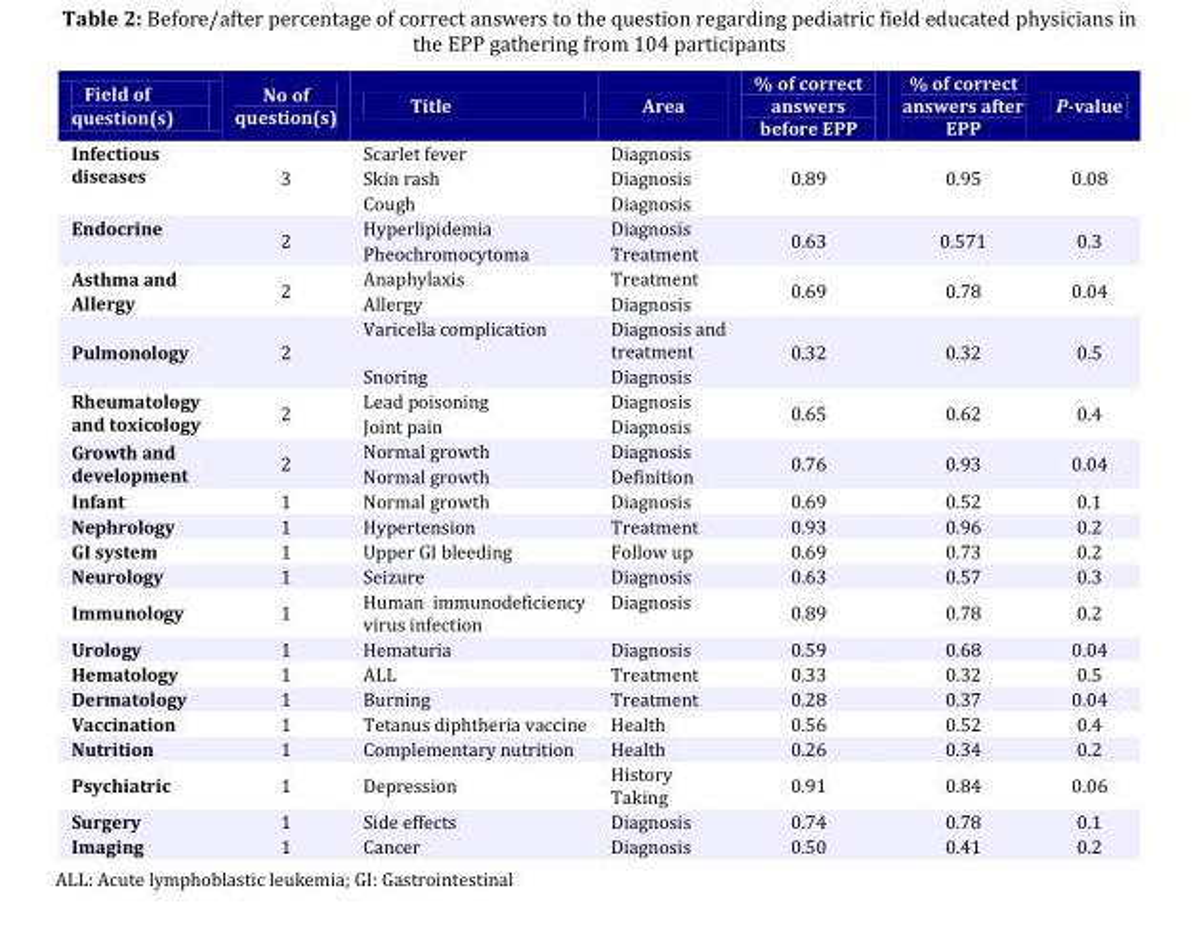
<table><thead><tr><td>Field of question(s)</td><td>No of question(s)</td><td>Title</td><td>Area</td><td>% of correct answers before EPP</td><td>% of correct answers after EPP</td><td>P-value</td></tr></thead><tbody><tr><td rowspan="3">Infectious diseases</td><td rowspan="3">3</td><td>Scarlet fever</td><td>Diagnosis</td><td rowspan="3">0.89</td><td rowspan="3">0.95</td><td rowspan="3">0.08</td></tr><tr><td>Skin rash</td><td>Diagnosis</td></tr><tr><td>Cough</td><td>Diagnosis</td></tr><tr><td rowspan="2">Endocrine</td><td rowspan="2">2</td><td>Hyperlipidemia</td><td>Diagnosis</td><td rowspan="2">0.63</td><td rowspan="2">0.571</td><td rowspan="2">0.3</td></tr><tr><td>Pheochromocytoma</td><td>Treatment</td></tr><tr><td rowspan="2">Asthma and Allergy</td><td rowspan="2">2</td><td>Anaphylaxis</td><td>Treatment</td><td rowspan="2">0.69</td><td rowspan="2">0.78</td><td rowspan="2">0.04</td></tr><tr><td>Allergy</td><td>Diagnosis</td></tr><tr><td rowspan="2">Pulmonology</td><td rowspan="2">2</td><td>Varicella complication</td><td>Diagnosis and treatment</td><td rowspan="2">0.32</td><td rowspan="2">0.32</td><td rowspan="2">0.5</td></tr><tr><td>Snoring</td><td>Diagnosis</td></tr><tr><td rowspan="2">Rheumatology and toxicology</td><td rowspan="2">2</td><td>Lead poisoning</td><td>Diagnosis</td><td rowspan="2">0.65</td><td rowspan="2">0.62</td><td rowspan="2">0.4</td></tr><tr><td>Joint pain</td><td>Diagnosis</td></tr><tr><td rowspan="2">Growth and development</td><td rowspan="2">2</td><td>Normal growth</td><td>Diagnosis</td><td rowspan="2">0.76</td><td rowspan="2">0.93</td><td rowspan="2">0.04</td></tr><tr><td>Normal growth</td><td>Definition</td></tr><tr><td>Infant</td><td>1</td><td>Normal growth</td><td>Diagnosis</td><td>0.69</td><td>0.52</td><td>0.1</td></tr><tr><td>Nephrology</td><td>1</td><td>Hypertension</td><td>Treatment</td><td>0.93</td><td>0.96</td><td>0.2</td></tr><tr><td>GI system</td><td>1</td><td>Upper GI bleeding</td><td>Follow up</td><td>0.69</td><td>0.73</td><td>0.2</td></tr><tr><td>Neurology</td><td>1</td><td>Seizure</td><td>Diagnosis</td><td>0.63</td><td>0.57</td><td>0.3</td></tr><tr><td>Immunology</td><td>1</td><td>Human immunodeficiency virus infection</td><td>Diagnosis</td><td>0.89</td><td>0.78</td><td>0.2</td></tr><tr><td>Urology</td><td>1</td><td>Hematuria</td><td>Diagnosis</td><td>0.59</td><td>0.68</td><td>0.04</td></tr><tr><td>Hematology</td><td>1</td><td>ALL</td><td>Treatment</td><td>0.33</td><td>0.32</td><td>0.5</td></tr><tr><td>Dermatology</td><td>1</td><td>Burning</td><td>Treatment</td><td>0.28</td><td>0.37</td><td>0.04</td></tr><tr><td>Vaccination</td><td>1</td><td>Tetanus diphtheria vaccine</td><td>Health</td><td>0.56</td><td>0.52</td><td>0.4</td></tr><tr><td>Nutrition</td><td>1</td><td>Complementary nutrition</td><td>Health</td><td>0.26</td><td>0.34</td><td>0.2</td></tr><tr><td>Psychiatric</td><td>1</td><td>Depression</td><td>History Taking</td><td>0.91</td><td>0.84</td><td>0.06</td></tr><tr><td>Surgery</td><td>1</td><td>Side effects</td><td>Diagnosis</td><td>0.74</td><td>0.78</td><td>0.1</td></tr><tr><td>Imaging</td><td>1</td><td>Cancer</td><td>Diagnosis</td><td>0.50</td><td>0.41</td><td>0.2</td></tr></tbody></table>